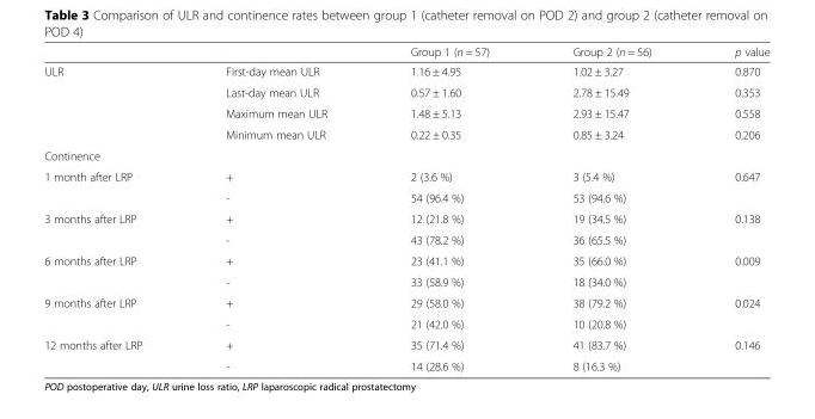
<table><thead><tr><td></td><td></td><td>Group 1 (n = 57)</td><td>Group 2 (n = 56)</td><td>p value</td></tr></thead><tbody><tr><td rowspan="4">ULR</td><td>First-day mean ULR</td><td>1.16 ± 4.95</td><td>1.02 ± 3.27</td><td>0.870</td></tr><tr><td>Last-day mean ULR</td><td>0.57 ± 1.60</td><td>2.78 ± 15.49</td><td>0.353</td></tr><tr><td>Maximum mean ULR</td><td>1.48 ± 5.13</td><td>2.93 ± 15.47</td><td>0.558</td></tr><tr><td>Minimum mean ULR</td><td>0.22 ± 0.35</td><td>0.85 ± 3.24</td><td>0.206</td></tr><tr><td colspan="5">Continence</td></tr><tr><td rowspan="2">1 month after LRP</td><td>+</td><td>2 (3.6 %)</td><td>3 (5.4 %)</td><td>0.647</td></tr><tr><td>-</td><td>54 (96.4 %)</td><td>53 (94.6 %)</td><td></td></tr><tr><td rowspan="2">3 months after LRP</td><td>+</td><td>12 (21.8 %)</td><td>19 (34.5 %)</td><td>0.138</td></tr><tr><td>-</td><td>43 (78.2 %)</td><td>36 (65.5 %)</td><td></td></tr><tr><td rowspan="2">6 months after LRP</td><td>+</td><td>23 (41.1 %)</td><td>35 (66.0 %)</td><td>0.009</td></tr><tr><td>-</td><td>33 (58.9 %)</td><td>18 (34.0 %)</td><td></td></tr><tr><td rowspan="2">9 months after LRP</td><td>+</td><td>29 (58.0 %)</td><td>38 (79.2 %)</td><td>0.024</td></tr><tr><td>-</td><td>21 (42.0 %)</td><td>10 (20.8 %)</td><td></td></tr><tr><td rowspan="2">12 months after LRP</td><td>+</td><td>35 (71.4 %)</td><td>41 (83.7 %)</td><td>0.146</td></tr><tr><td>-</td><td>14 (28.6 %)</td><td>8 (16.3 %)</td><td></td></tr></tbody></table>